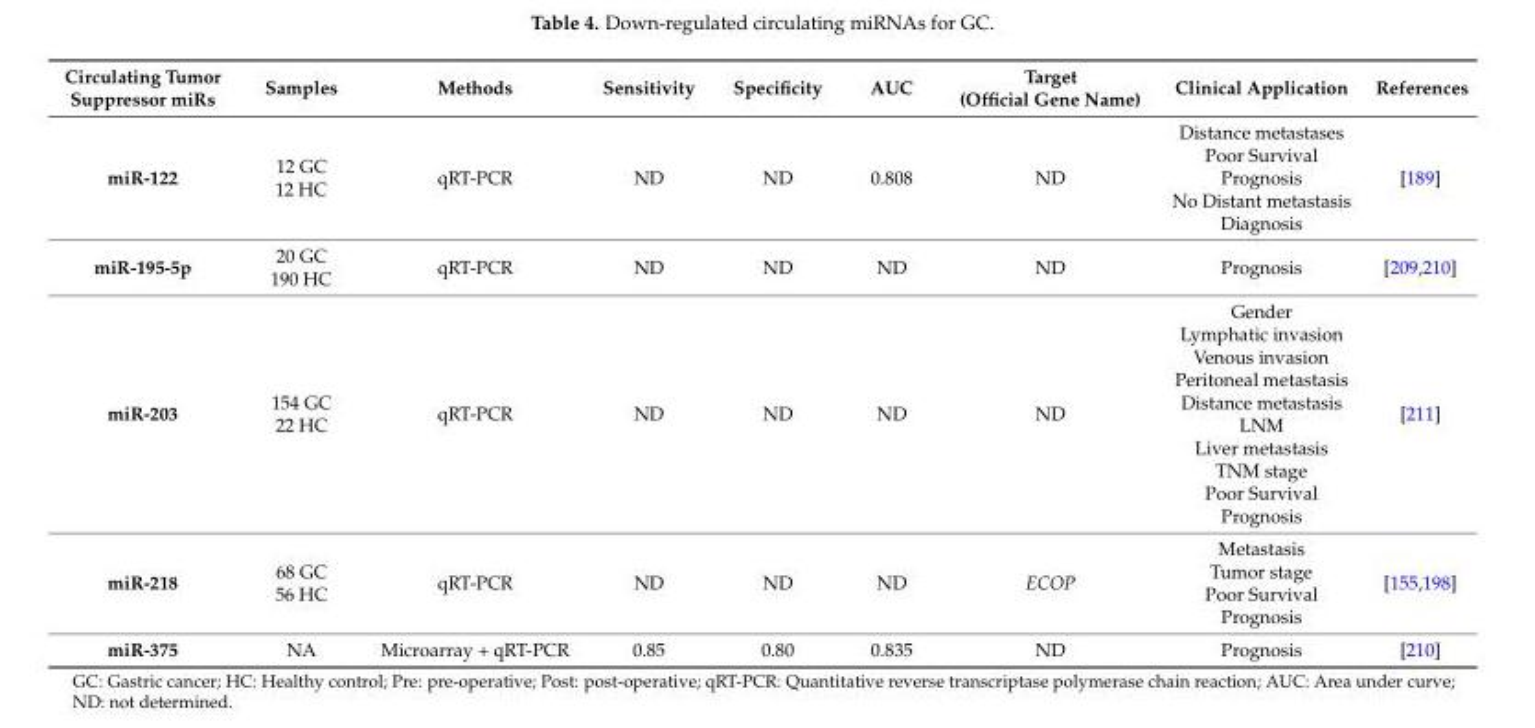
<table><thead><tr><td>Circulating Tumor Suppressor miRs</td><td>Samples</td><td>Methods</td><td>Sensitivity</td><td>Specificity</td><td>AUC</td><td>Target (Official Gene Name)</td><td>Clinical Application</td><td>References</td></tr></thead><tbody><tr><td>miR-122</td><td>12 GC 12 HC</td><td>qRT-PCR</td><td>ND</td><td>ND</td><td>0.808</td><td>ND</td><td>Distance metastases Poor Survival Prognosis No Distant metastasis Diagnosis</td><td>[189]</td></tr><tr><td>miR-195-5p</td><td>20 GC 190 HC</td><td>qRT-PCR</td><td>ND</td><td>ND</td><td>ND</td><td>ND</td><td>Prognosis</td><td>[209,210]</td></tr><tr><td>miR-203</td><td>154 GC 22 HC</td><td>qRT-PCR</td><td>ND</td><td>ND</td><td>ND</td><td>ND</td><td>Gender Lymphatic invasion Venous invasion Peritoneal metastasis Distance metastasis LNM Liver metastasis TNM stage Poor Survival Prognosis</td><td>[211]</td></tr><tr><td>miR-218</td><td>68 GC 56 HC</td><td>qRT-PCR</td><td>ND</td><td>ND</td><td>ND</td><td>ECOP</td><td>Metastasis Tumor stage Poor Survival Prognosis</td><td>[155,198]</td></tr><tr><td>miR-375</td><td>NA</td><td>Microarray + qRT-PCR</td><td>0.85</td><td>0.80</td><td>0.835</td><td>ND</td><td>Prognosis</td><td>[210]</td></tr></tbody></table>